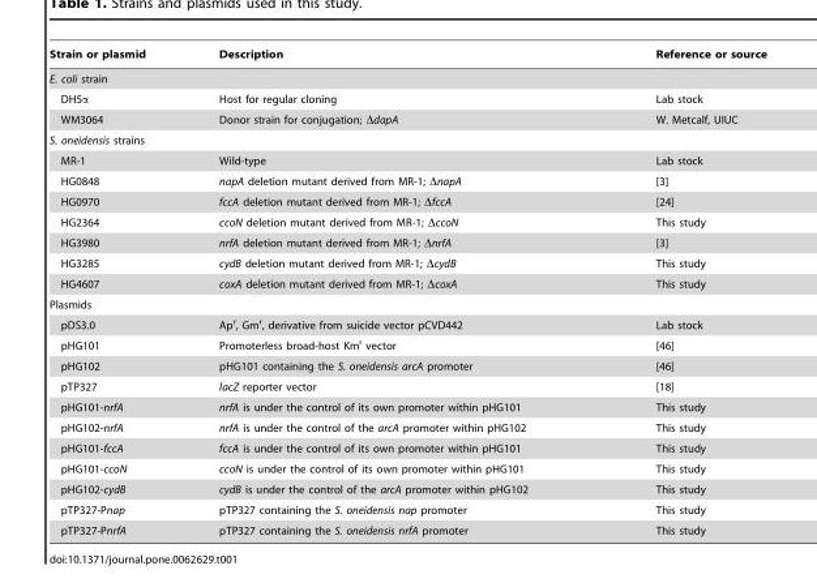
<table><thead><tr><td>Strain or plasmid</td><td>Description</td><td>Reference or source</td></tr></thead><tbody><tr><td colspan="3">E. coli strain</td></tr><tr><td>DH5α</td><td>Host for regular cloning</td><td>Lab stock</td></tr><tr><td>WM3064</td><td>Donor strain for conjugation; ΔdapA</td><td>W. Metcalf, UIUC</td></tr><tr><td colspan="3">S. oneidensis strains</td></tr><tr><td>MR-1</td><td>Wild-type</td><td>Lab stock</td></tr><tr><td>HG0848</td><td>napA deletion mutant derived from MR-1; ΔnapA</td><td>[3]</td></tr><tr><td>HG0970</td><td>fccA deletion mutant derived from MR-1; ΔfccA</td><td>[24]</td></tr><tr><td>HG2364</td><td>ccoN deletion mutant derived from MR-1; ΔccoN</td><td>This study</td></tr><tr><td>HG3980</td><td>nrfA deletion mutant derived from MR-1; ΔnrfA</td><td>[3]</td></tr><tr><td>HG3285</td><td>cydB deletion mutant derived from MR-1; ΔcydB</td><td>This study</td></tr><tr><td>HG4607</td><td>coxA deletion mutant derived from MR-1; ΔcoxA</td><td>This study</td></tr><tr><td colspan="3">Plasmids</td></tr><tr><td>pDS3.0</td><td>Ap<sup>r</sup>, Gm<sup>r</sup>, derivative from suicide vector pCVD442</td><td>Lab stock</td></tr><tr><td>pHG101</td><td>Promoterless broad-host Km<sup>r</sup> vector</td><td>[46]</td></tr><tr><td>pHG102</td><td>pHG101 containing the S. oneidensis arcA promoter</td><td>[46]</td></tr><tr><td>pTP327</td><td>lacZ reporter vector</td><td>[18]</td></tr><tr><td>pHG101-nrfA</td><td>nrfA is under the control of its own promoter within pHG101</td><td>This study</td></tr><tr><td>pHG102-nrfA</td><td>nrfA is under the control of the arcA promoter within pHG102</td><td>This study</td></tr><tr><td>pHG101-fccA</td><td>fccA is under the control of its own promoter within pHG101</td><td>This study</td></tr><tr><td>pHG101-ccoN</td><td>ccoN is under the control of its own promoter within pHG101</td><td>This study</td></tr><tr><td>pHG102-cydB</td><td>cydB is under the control of the arcA promoter within pHG102</td><td>This study</td></tr><tr><td>pTP327-Pnap</td><td>pTP327 containing the S. oneidensis nap promoter</td><td>This study</td></tr><tr><td>pTP327-PnrfA</td><td>pTP327 containing the S. oneidensis nrfA promoter</td><td>This study</td></tr></tbody></table>